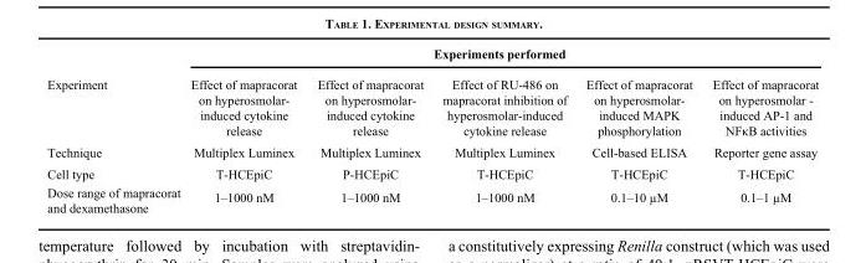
<table><thead><tr><td rowspan="2">Experiment</td><td colspan="5">Experiments performed</td></tr><tr><td>Effect of mapracorat on hyperosmolar- induced cytokine release</td><td>Effect of mapracorat on hyperosmolar- induced cytokine release</td><td>Effect of RU-486 on mapracorat inhibition of hyperosmolar-induced cytokine release</td><td>Effect of mapracorat on hyperosmolar- induced MAPK phosphorylation</td><td>Effect of mapracorat on hyperosmolar - induced AP-1 and NFκB activities</td></tr></thead><tbody><tr><td>Technique</td><td>Multiplex Luminex</td><td>Multiplex Luminex</td><td>Multiplex Luminex</td><td>Cell-based ELISA</td><td>Reporter gene assay</td></tr><tr><td>Cell type</td><td>T-HCEpiC</td><td>P-HCEpiC</td><td>T-HCEpiC</td><td>T-HCEpiC</td><td>T-HCEpiC</td></tr><tr><td>Dose range of mapracorat and dexamethasone</td><td>1–1000 nM</td><td>1–1000 nM</td><td>1–1000 nM</td><td>0.1–10 µM</td><td>0.1–1 µM</td></tr></tbody></table>